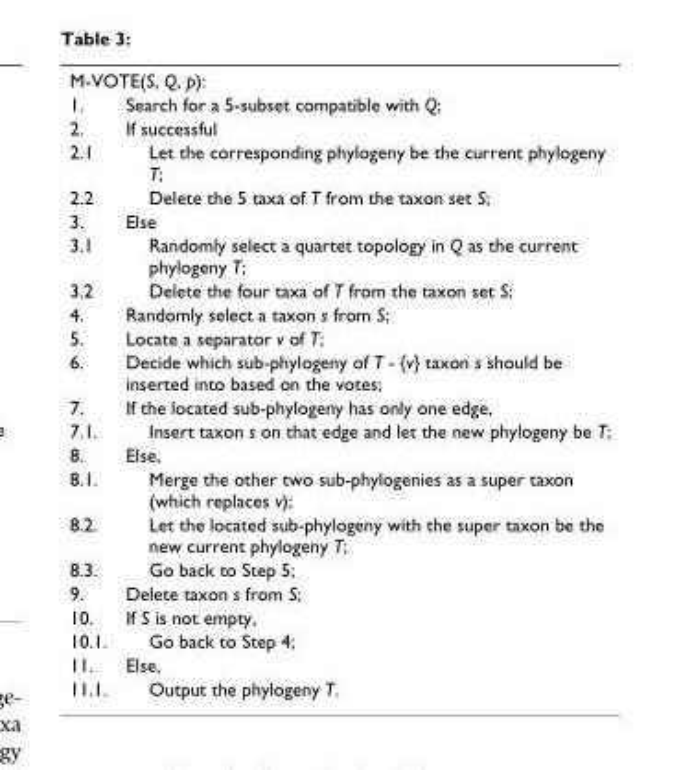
<table><tbody><tr><td colspan="2">M-VOTE(S, Q, p):</td></tr><tr><td>1.</td><td>Search for a 5-subset compatible with Q;</td></tr><tr><td>2.</td><td>If successful</td></tr><tr><td>2.1</td><td>Let the corresponding phylogeny be the current phylogeny T;</td></tr><tr><td>2.2</td><td>Delete the 5 taxa of T from the taxon set S;</td></tr><tr><td>3.</td><td>Else</td></tr><tr><td>3.1</td><td>Randomly select a quartet topology in Q as the current phylogeny T;</td></tr><tr><td>3.2</td><td>Delete the four taxa of T from the taxon set S;</td></tr><tr><td>4.</td><td>Randomly select a taxon s from S;</td></tr><tr><td>5.</td><td>Locate a separator v of T;</td></tr><tr><td>6.</td><td>Decide which sub-phylogeny of T - {v} taxon s should be inserted into based on the votes;</td></tr><tr><td>7.</td><td>If the located sub-phylogeny has only one edge,</td></tr><tr><td>7.1.</td><td>Insert taxon s on that edge and let the new phylogeny be T;</td></tr><tr><td>8.</td><td>Else,</td></tr><tr><td>8.1.</td><td>Merge the other two sub-phylogenies as a super taxon (which replaces v);</td></tr><tr><td>8.2.</td><td>Let the located sub-phylogeny with the super taxon be the new current phylogeny T;</td></tr><tr><td>8.3.</td><td>Go back to Step 5;</td></tr><tr><td>9.</td><td>Delete taxon s from S;</td></tr><tr><td>10.</td><td>If S is not empty,</td></tr><tr><td>10.1.</td><td>Go back to Step 4;</td></tr><tr><td>11.</td><td>Else,</td></tr><tr><td>11.1.</td><td>Output the phylogeny T.</td></tr></tbody></table>